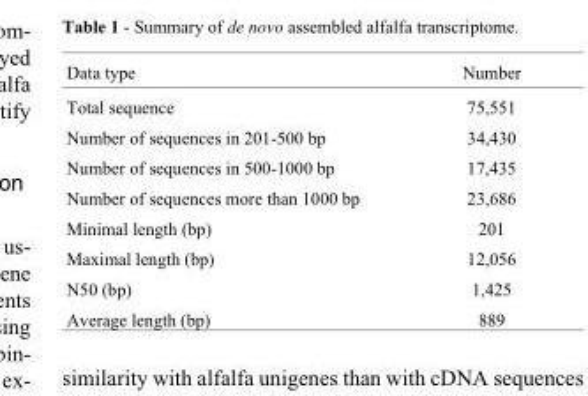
<table><thead><tr><td>Data type</td><td>Number</td></tr></thead><tbody><tr><td>Total sequence</td><td>75,551</td></tr><tr><td>Number of sequences in 201-500 bp</td><td>34,430</td></tr><tr><td>Number of sequences in 500-1000 bp</td><td>17,435</td></tr><tr><td>Number of sequences more than 1000 bp</td><td>23,686</td></tr><tr><td>Minimal length (bp)</td><td>201</td></tr><tr><td>Maximal length (bp)</td><td>12,056</td></tr><tr><td>N50 (bp)</td><td>1,425</td></tr><tr><td>Average length (bp)</td><td>889</td></tr></tbody></table>